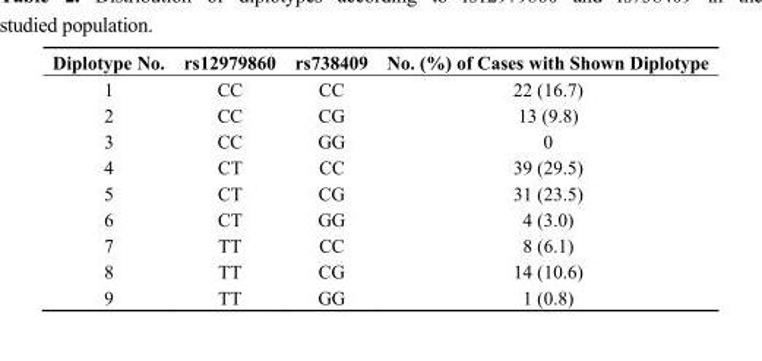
<table><thead><tr><td>Diplotype No.</td><td>rs12979860</td><td>rs738409</td><td>No. (%) of Cases with Shown Diplotype</td></tr></thead><tbody><tr><td>1</td><td>CC</td><td>CC</td><td>22 (16.7)</td></tr><tr><td>2</td><td>CC</td><td>CG</td><td>13 (9.8)</td></tr><tr><td>3</td><td>CC</td><td>GG</td><td>0</td></tr><tr><td>4</td><td>CT</td><td>CC</td><td>39 (29.5)</td></tr><tr><td>5</td><td>CT</td><td>CG</td><td>31 (23.5)</td></tr><tr><td>6</td><td>CT</td><td>GG</td><td>4 (3.0)</td></tr><tr><td>7</td><td>TT</td><td>CC</td><td>8 (6.1)</td></tr><tr><td>8</td><td>TT</td><td>CG</td><td>14 (10.6)</td></tr><tr><td>9</td><td>TT</td><td>GG</td><td>1 (0.8)</td></tr></tbody></table>